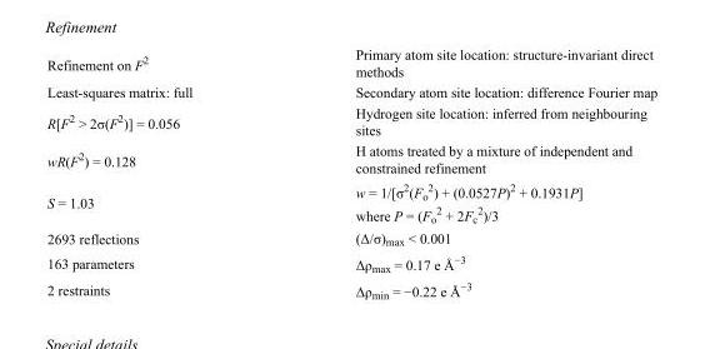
<table><tbody><tr><td>Refinement on F<sup>2</sup></td><td>Primary atom site location: structure-invariant direct methods</td></tr><tr><td>Least-squares matrix: full</td><td>Secondary atom site location: difference Fourier map</td></tr><tr><td>R[F<sup>2</sup> &gt; 2σ(F<sup>2</sup>)] = 0.056</td><td>Hydrogen site location: inferred from neighbouring sites</td></tr><tr><td>wR(F<sup>2</sup>) = 0.128</td><td>H atoms treated by a mixture of independent and constrained refinement</td></tr><tr><td>S = 1.03</td><td>w = 1/[σ<sup>2</sup>(F<sub>o</sub> <sup>2</sup>) + (0.0527P)<sup>2</sup> + 0.1931P] where P = (F<sub>o</sub> <sup>2</sup> + 2F<sub>c</sub> <sup>2</sup>)/3</td></tr><tr><td>2693 reflections</td><td>(Δ/σ)<sub>max</sub> &lt; 0.001</td></tr><tr><td>163 parameters</td><td>Δρ<sub>max</sub> = 0.17 e Å<sup>−3</sup></td></tr><tr><td>2 restraints</td><td>Δρ<sub>min</sub> = −0.22 e Å<sup>−3</sup></td></tr></tbody></table>